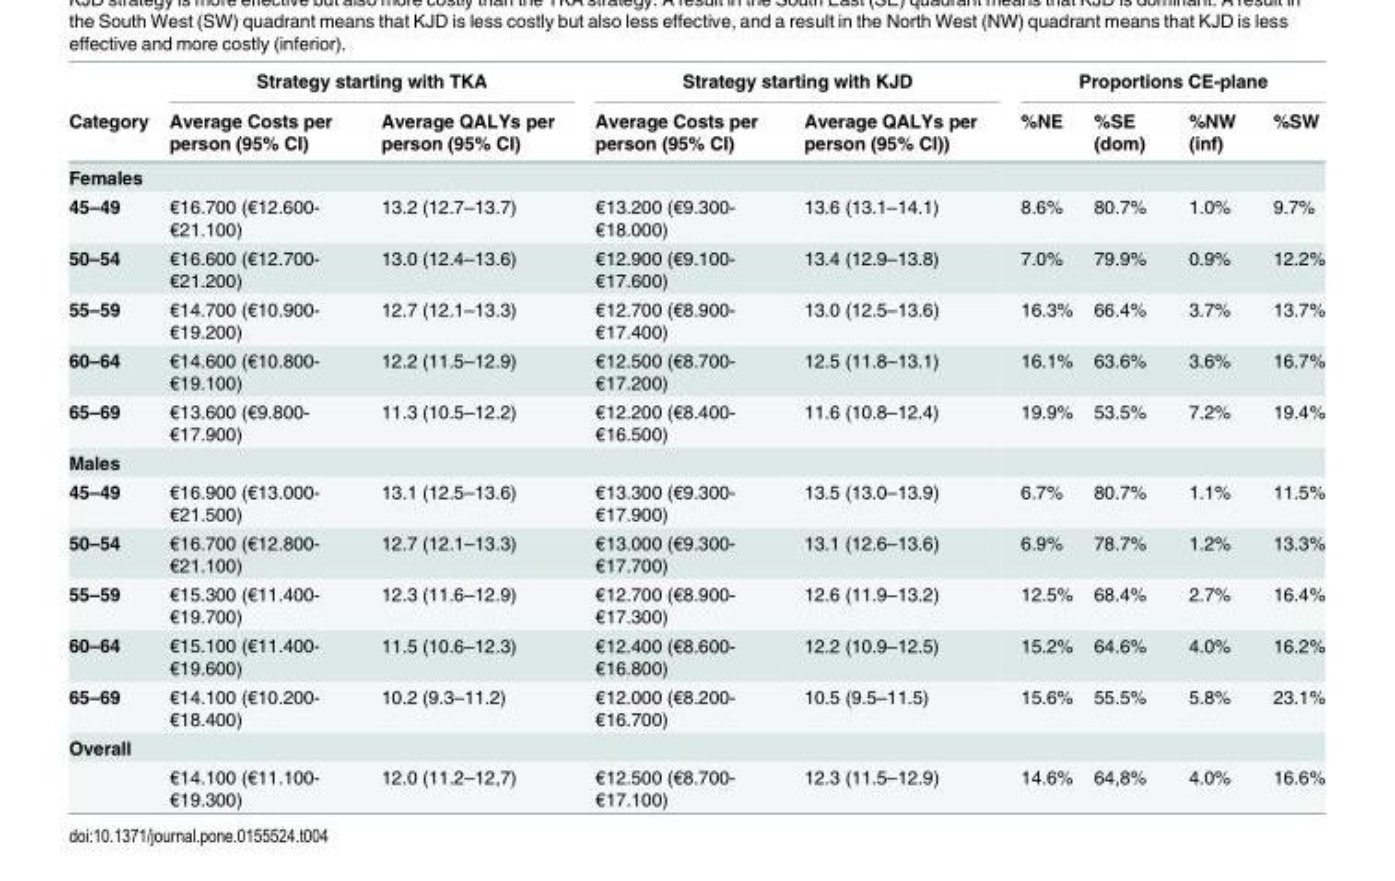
<table><thead><tr><td rowspan="2">Category</td><td colspan="2">Strategy starting with TKA</td><td colspan="2">Strategy starting with KJD</td><td colspan="4">Proportions CE-plane</td></tr><tr><td>Average Costs per person (95% CI)</td><td>Average QALYs per person (95% CI)</td><td>Average Costs per person (95% CI)</td><td>Average QALYs per person (95% CI))</td><td>%NE</td><td>%SE (dom)</td><td>%NW (inf)</td><td>%SW</td></tr></thead><tbody><tr><td colspan="9">Females</td></tr><tr><td>45–49</td><td>€16.700 (€12.600- €21.100)</td><td>13.2 (12.7–13.7)</td><td>€13.200 (€9.300- €18.000)</td><td>13.6 (13.1–14.1)</td><td>8.6%</td><td>80.7%</td><td>1.0%</td><td>9.7%</td></tr><tr><td>50–54</td><td>€16.600 (€12.700- €21.200)</td><td>13.0 (12.4–13.6)</td><td>€12.900 (€9.100- €17.600)</td><td>13.4 (12.9–13.8)</td><td>7.0%</td><td>79.9%</td><td>0.9%</td><td>12.2%</td></tr><tr><td>55–59</td><td>€14.700 (€10.900- €19.200)</td><td>12.7 (12.1–13.3)</td><td>€12.700 (€8.900- €17.400)</td><td>13.0 (12.5–13.6)</td><td>16.3%</td><td>66.4%</td><td>3.7%</td><td>13.7%</td></tr><tr><td>60–64</td><td>€14.600 (€10.800- €19.100)</td><td>12.2 (11.5–12.9)</td><td>€12.500 (€8.700- €17.200)</td><td>12.5 (11.8–13.1)</td><td>16.1%</td><td>63.6%</td><td>3.6%</td><td>16.7%</td></tr><tr><td>65–69</td><td>€13.600 (€9.800- €17.900)</td><td>11.3 (10.5–12.2)</td><td>€12.200 (€8.400- €16.500)</td><td>11.6 (10.8–12.4)</td><td>19.9%</td><td>53.5%</td><td>7.2%</td><td>19.4%</td></tr><tr><td colspan="9">Males</td></tr><tr><td>45–49</td><td>€16.900 (€13.000- €21.500)</td><td>13.1 (12.5–13.6)</td><td>€13.300 (€9.300- €17.900)</td><td>13.5 (13.0–13.9)</td><td>6.7%</td><td>80.7%</td><td>1.1%</td><td>11.5%</td></tr><tr><td>50–54</td><td>€16.700 (€12.800- €21.100)</td><td>12.7 (12.1–13.3)</td><td>€13.000 (€9.300- €17.700)</td><td>13.1 (12.6–13.6)</td><td>6.9%</td><td>78.7%</td><td>1.2%</td><td>13.3%</td></tr><tr><td>55–59</td><td>€15.300 (€11.400- €19.700)</td><td>12.3 (11.6–12.9)</td><td>€12.700 (€8.900- €17.300)</td><td>12.6 (11.9–13.2)</td><td>12.5%</td><td>68.4%</td><td>2.7%</td><td>16.4%</td></tr><tr><td>60–64</td><td>€15.100 (€11.400- €19.600)</td><td>11.5 (10.6–12.3)</td><td>€12.400 (€8.600- €16.800)</td><td>12.2 (10.9–12.5)</td><td>15.2%</td><td>64.6%</td><td>4.0%</td><td>16.2%</td></tr><tr><td>65–69</td><td>€14.100 (€10.200- €18.400)</td><td>10.2 (9.3–11.2)</td><td>€12.000 (€8.200- €16.700)</td><td>10.5 (9.5–11.5)</td><td>15.6%</td><td>55.5%</td><td>5.8%</td><td>23.1%</td></tr><tr><td colspan="9">Overall</td></tr><tr><td></td><td>€14.100 (€11.100- €19.300)</td><td>12.0 (11.2–12,7)</td><td>€12.500 (€8.700- €17.100)</td><td>12.3 (11.5–12.9)</td><td>14.6%</td><td>64,8%</td><td>4.0%</td><td>16.6%</td></tr></tbody></table>